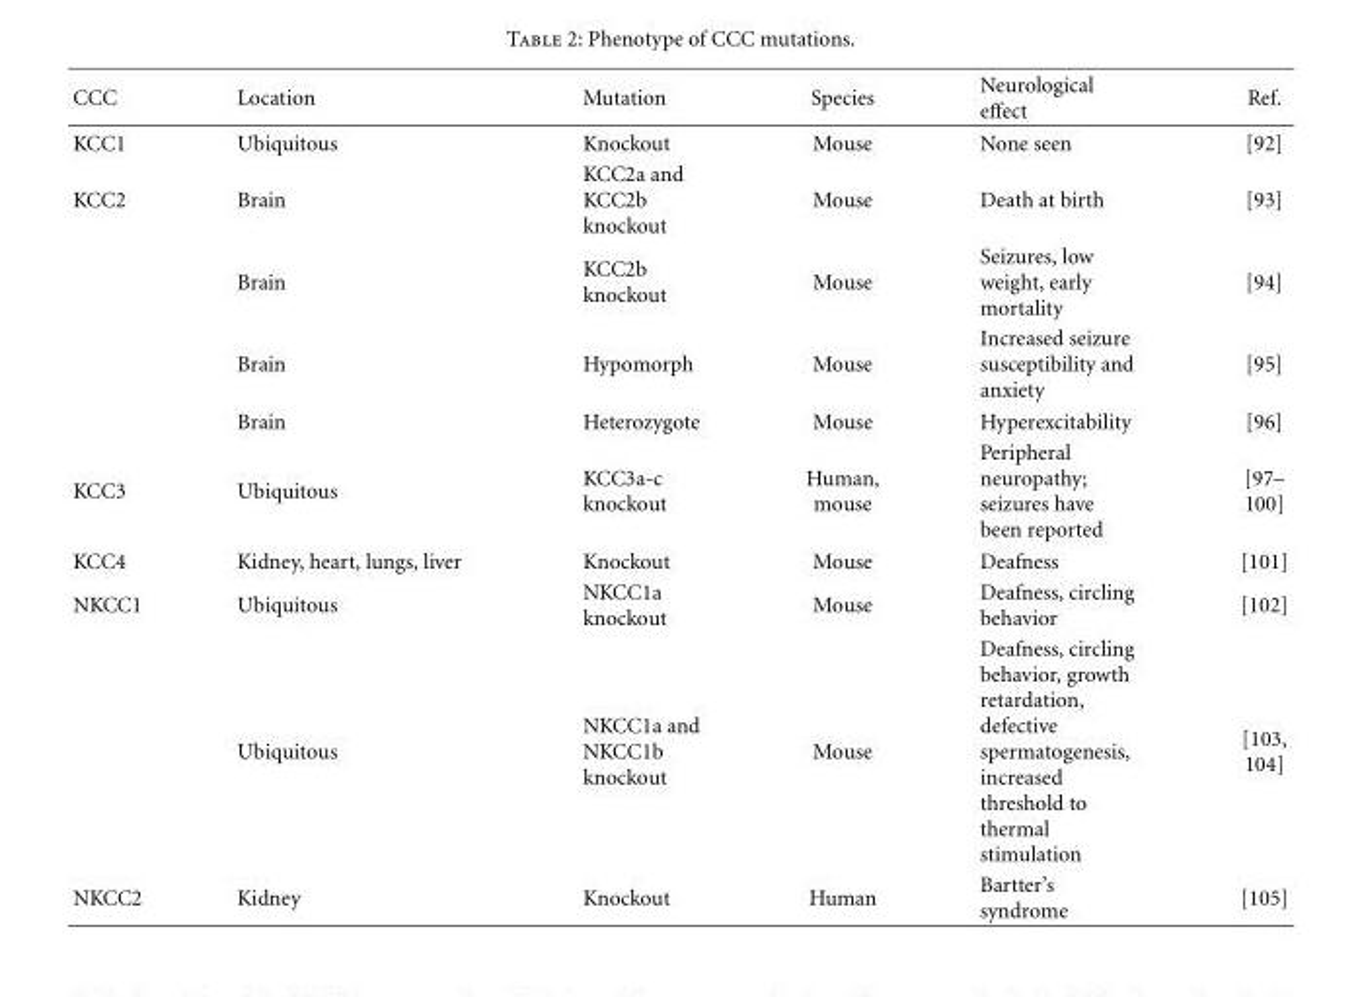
<table><thead><tr><td>CCC</td><td>Location</td><td>Mutation</td><td>Species</td><td>Neurological effect</td><td>Ref.</td></tr></thead><tbody><tr><td>KCC1</td><td>Ubiquitous</td><td>Knockout</td><td>Mouse</td><td>None seen</td><td>[92]</td></tr><tr><td rowspan="4">KCC2</td><td>Brain</td><td>KCC2a and KCC2b knockout</td><td>Mouse</td><td>Death at birth</td><td>[93]</td></tr><tr><td>Brain</td><td>KCC2b knockout</td><td>Mouse</td><td>Seizures, low weight, early mortality</td><td>[94]</td></tr><tr><td>Brain</td><td>Hypomorph</td><td>Mouse</td><td>Increased seizure susceptibility and anxiety</td><td>[95]</td></tr><tr><td>Brain</td><td>Heterozygote</td><td>Mouse</td><td>Hyperexcitability</td><td>[96]</td></tr><tr><td>KCC3</td><td>Ubiquitous</td><td>KCC3a-c knockout</td><td>Human, mouse</td><td>Peripheral neuropathy; seizures have been reported</td><td>[97– 100]</td></tr><tr><td>KCC4</td><td>Kidney, heart, lungs, liver</td><td>Knockout</td><td>Mouse</td><td>Deafness</td><td>[101]</td></tr><tr><td rowspan="2">NKCC1</td><td>Ubiquitous</td><td>NKCC1a knockout</td><td>Mouse</td><td>Deafness, circling behavior</td><td>[102]</td></tr><tr><td>Ubiquitous</td><td>NKCC1a and NKCC1b knockout</td><td>Mouse</td><td>Deafness, circling behavior, growth retardation, defective spermatogenesis, increased threshold to thermal stimulation</td><td>[103, 104]</td></tr><tr><td>NKCC2</td><td>Kidney</td><td>Knockout</td><td>Human</td><td>Bartter’s syndrome</td><td>[105]</td></tr></tbody></table>